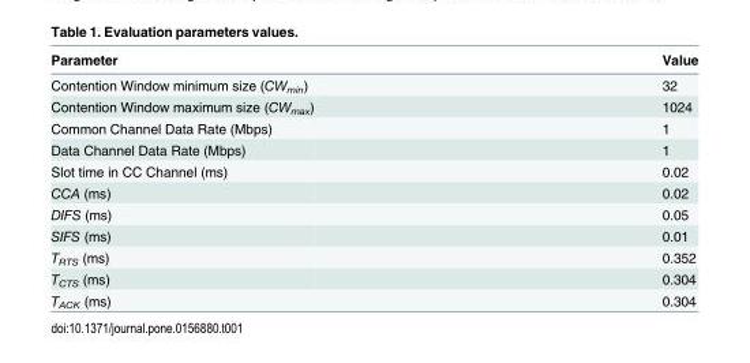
<table><thead><tr><td>Parameter</td><td>Value</td></tr></thead><tbody><tr><td>Contention Window minimum size (CW<sub>min</sub>)</td><td>32</td></tr><tr><td>Contention Window maximum size (CW<sub>max</sub>)</td><td>1024</td></tr><tr><td>Common Channel Data Rate (Mbps)</td><td>1</td></tr><tr><td>Data Channel Data Rate (Mbps)</td><td>1</td></tr><tr><td>Slot time in CC Channel (ms)</td><td>0.02</td></tr><tr><td>CCA (ms)</td><td>0.02</td></tr><tr><td>DIFS (ms)</td><td>0.05</td></tr><tr><td>SIFS (ms)</td><td>0.01</td></tr><tr><td>T<sub>RTS</sub> (ms)</td><td>0.352</td></tr><tr><td>T<sub>CTS</sub> (ms)</td><td>0.304</td></tr><tr><td>T<sub>ACK</sub> (ms)</td><td>0.304</td></tr></tbody></table>